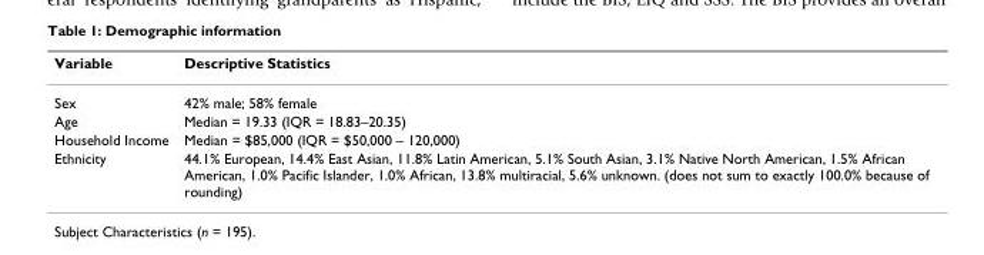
<table><thead><tr><td>Variable</td><td>Descriptive Statistics</td></tr></thead><tbody><tr><td>Sex</td><td>42% male; 58% female</td></tr><tr><td>Age</td><td>Median = 19.33 (IQR = 18.83–20.35)</td></tr><tr><td>Household Income</td><td>Median = $85,000 (IQR = $50,000 – 120,000)</td></tr><tr><td>Ethnicity</td><td>44.1% European, 14.4% East Asian, 11.8% Latin American, 5.1% South Asian, 3.1% Native North American, 1.5% African American, 1.0% Pacific Islander, 1.0% African, 13.8% multiracial, 5.6% unknown. (does not sum to exactly 100.0% because of rounding)</td></tr></tbody></table>